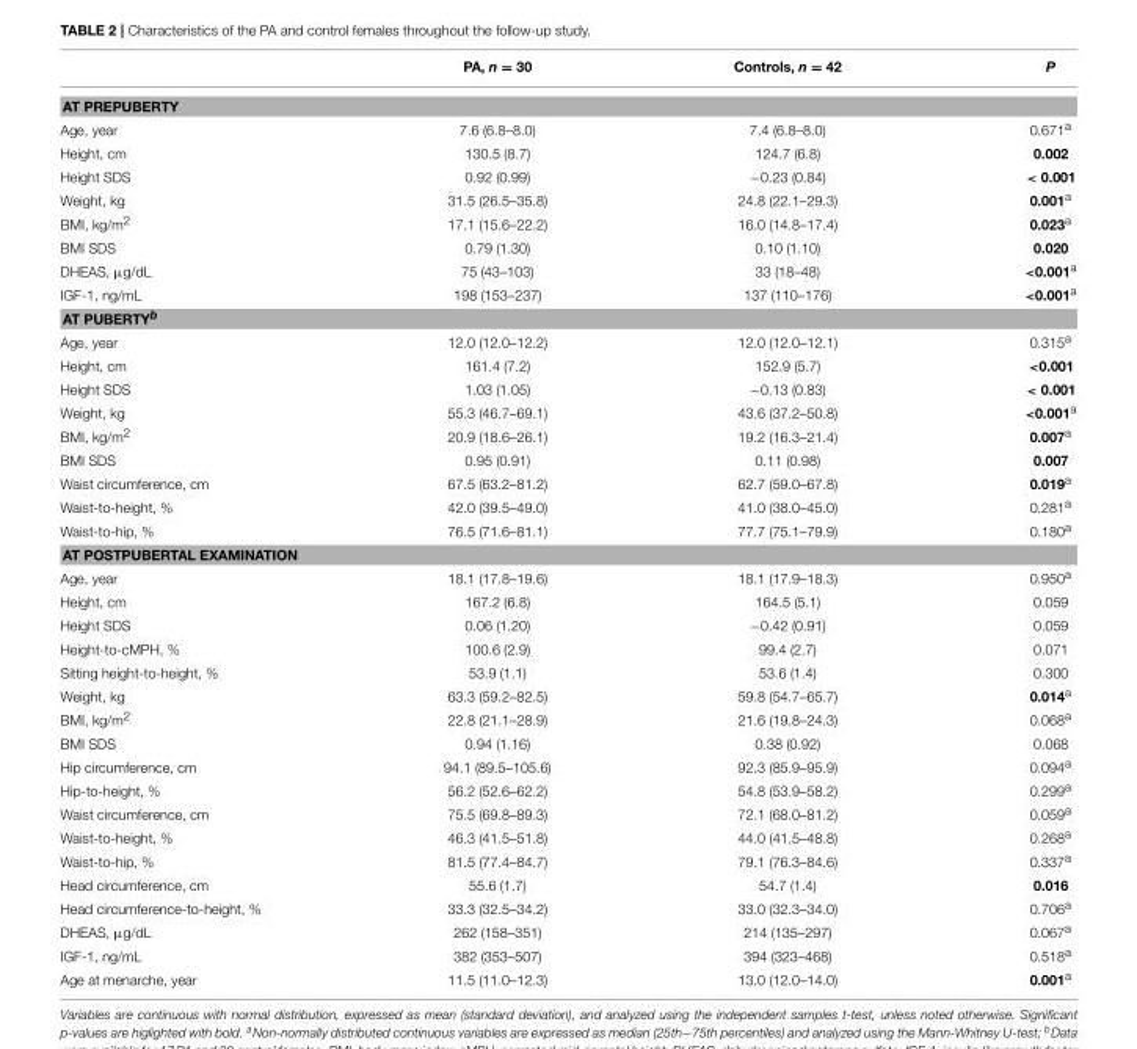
<table><thead><tr><td></td><td>PA, n = 30</td><td>Controls, n = 42</td><td>P</td></tr></thead><tbody><tr><td colspan="4">AT PREPUBERTY</td></tr><tr><td>Age, year</td><td>7.6 (6.8–8.0)</td><td>7.4 (6.8–8.0)</td><td>0.671<sup>a</sup></td></tr><tr><td>Height, cm</td><td>130.5 (8.7)</td><td>124.7 (6.8)</td><td>0.002</td></tr><tr><td>Height SDS</td><td>0.92 (0.99)</td><td>−0.23 (0.84)</td><td>&lt; 0.001</td></tr><tr><td>Weight, kg</td><td>31.5 (26.5–35.8)</td><td>24.8 (22.1–29.3)</td><td>0.001<sup>a</sup></td></tr><tr><td>BMI, kg/m<sup>2</sup></td><td>17.1 (15.6–22.2)</td><td>16.0 (14.8–17.4)</td><td>0.023<sup>a</sup></td></tr><tr><td>BMI SDS</td><td>0.79 (1.30)</td><td>0.10 (1.10)</td><td>0.020</td></tr><tr><td>DHEAS, µg/dL</td><td>75 (43–103)</td><td>33 (18–48)</td><td>&lt;0.001<sup>a</sup></td></tr><tr><td>IGF-1, ng/mL</td><td>198 (153–237)</td><td>137 (110–176)</td><td>&lt;0.001<sup>a</sup></td></tr><tr><td colspan="4">AT PUBERTY<sup>b</sup></td></tr><tr><td>Age, year</td><td>12.0 (12.0–12.2)</td><td>12.0 (12.0–12.1)</td><td>0.315<sup>a</sup></td></tr><tr><td>Height, cm</td><td>161.4 (7.2)</td><td>152.9 (5.7)</td><td>&lt;0.001</td></tr><tr><td>Height SDS</td><td>1.03 (1.05)</td><td>−0.13 (0.83)</td><td>&lt; 0.001</td></tr><tr><td>Weight, kg</td><td>55.3 (46.7–69.1)</td><td>43.6 (37.2–50.8)</td><td>&lt;0.001<sup>a</sup></td></tr><tr><td>BMI, kg/m<sup>2</sup></td><td>20.9 (18.6–26.1)</td><td>19.2 (16.3–21.4)</td><td>0.007<sup>a</sup></td></tr><tr><td>BMI SDS</td><td>0.95 (0.91)</td><td>0.11 (0.98)</td><td>0.007</td></tr><tr><td>Waist circumference, cm</td><td>67.5 (63.2–81.2)</td><td>62.7 (59.0–67.8)</td><td>0.019<sup>a</sup></td></tr><tr><td>Waist-to-height, %</td><td>42.0 (39.5–49.0)</td><td>41.0 (38.0–45.0)</td><td>0.281<sup>a</sup></td></tr><tr><td>Waist-to-hip, %</td><td>76.5 (71.6–81.1)</td><td>77.7 (75.1–79.9)</td><td>0.180<sup>a</sup></td></tr><tr><td colspan="4">AT POSTPUBERTAL EXAMINATION</td></tr><tr><td>Age, year</td><td>18.1 (17.8–19.6)</td><td>18.1 (17.9–18.3)</td><td>0.950<sup>a</sup></td></tr><tr><td>Height, cm</td><td>167.2 (6.8)</td><td>164.5 (5.1)</td><td>0.059</td></tr><tr><td>Height SDS</td><td>0.06 (1.20)</td><td>−0.42 (0.91)</td><td>0.059</td></tr><tr><td>Height-to-cMPH, %</td><td>100.6 (2.9)</td><td>99.4 (2.7)</td><td>0.071</td></tr><tr><td>Sitting height-to-height, %</td><td>53.9 (1.1)</td><td>53.6 (1.4)</td><td>0.300</td></tr><tr><td>Weight, kg</td><td>63.3 (59.2–82.5)</td><td>59.8 (54.7–65.7)</td><td>0.014<sup>a</sup></td></tr><tr><td>BMI, kg/m<sup>2</sup></td><td>22.8 (21.1–28.9)</td><td>21.6 (19.8–24.3)</td><td>0.068<sup>a</sup></td></tr><tr><td>BMI SDS</td><td>0.94 (1.16)</td><td>0.38 (0.92)</td><td>0.068</td></tr><tr><td>Hip circumference, cm</td><td>94.1 (89.5–105.6)</td><td>92.3 (85.9–95.9)</td><td>0.094<sup>a</sup></td></tr><tr><td>Hip-to-height, %</td><td>56.2 (52.6–62.2)</td><td>54.8 (53.9–58.2)</td><td>0.299<sup>a</sup></td></tr><tr><td>Waist circumference, cm</td><td>75.5 (69.8–89.3)</td><td>72.1 (68.0–81.2)</td><td>0.059<sup>a</sup></td></tr><tr><td>Waist-to-height, %</td><td>46.3 (41.5–51.8)</td><td>44.0 (41.5–48.8)</td><td>0.268<sup>a</sup></td></tr><tr><td>Waist-to-hip, %</td><td>81.5 (77.4–84.7)</td><td>79.1 (76.3–84.6)</td><td>0.337<sup>a</sup></td></tr><tr><td>Head circumference, cm</td><td>55.6 (1.7)</td><td>54.7 (1.4)</td><td>0.016</td></tr><tr><td>Head circumference-to-height, %</td><td>33.3 (32.5–34.2)</td><td>33.0 (32.3–34.0)</td><td>0.706<sup>a</sup></td></tr><tr><td>DHEAS, µg/dL</td><td>262 (158–351)</td><td>214 (135–297)</td><td>0.067<sup>a</sup></td></tr><tr><td>IGF-1, ng/mL</td><td>382 (353–507)</td><td>394 (323–468)</td><td>0.518<sup>a</sup></td></tr><tr><td>Age at menarche, year</td><td>11.5 (11.0–12.3)</td><td>13.0 (12.0–14.0)</td><td>0.001<sup>a</sup></td></tr></tbody></table>